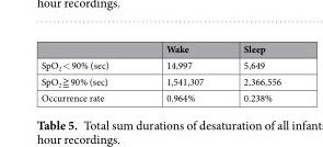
<table><thead><tr><td></td><td>Wake</td><td>Sleep</td></tr></thead><tbody><tr><td>SpO<sub>2</sub> &lt; 90% (sec)</td><td>14,997</td><td>5,649</td></tr><tr><td>SpO<sub>2</sub> ≧ 90% (sec)</td><td>1,541,307</td><td>2,366,556</td></tr><tr><td>Occurrence rate</td><td>0.964%</td><td>0.238%</td></tr></tbody></table>